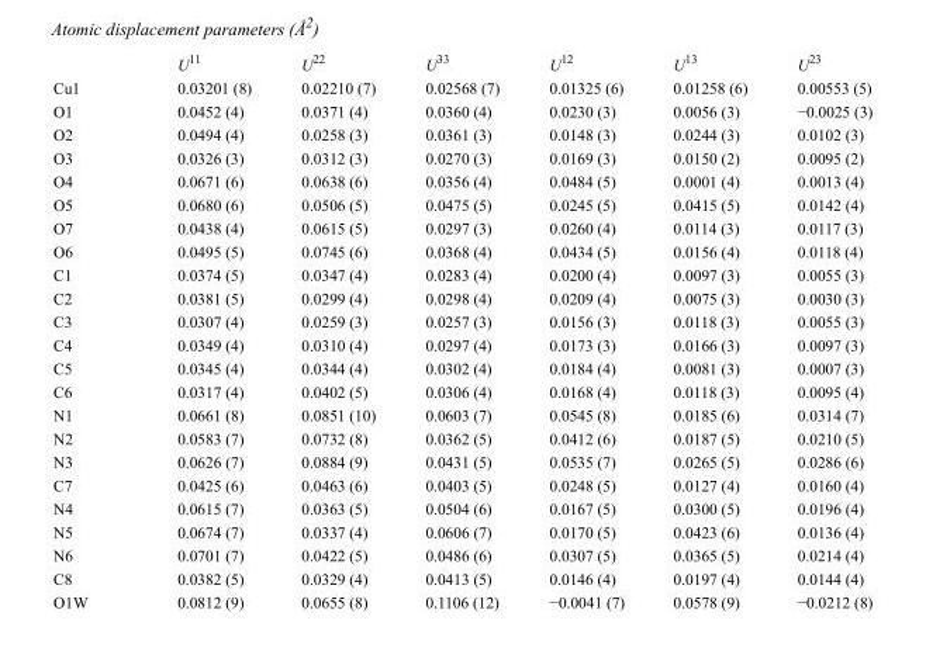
<table><thead><tr><td></td><td>U<sup>11</sup></td><td>U<sup>22</sup></td><td>U<sup>33</sup></td><td>U<sup>12</sup></td><td>U<sup>13</sup></td><td>U<sup>23</sup></td></tr></thead><tbody><tr><td>Cu1</td><td>0.03201 (8)</td><td>0.02210 (7)</td><td>0.02568 (7)</td><td>0.01325 (6)</td><td>0.01258 (6)</td><td>0.00553 (5)</td></tr><tr><td>O1</td><td>0.0452 (4)</td><td>0.0371 (4)</td><td>0.0360 (4)</td><td>0.0230 (3)</td><td>0.0056 (3)</td><td>−0.0025 (3)</td></tr><tr><td>O2</td><td>0.0494 (4)</td><td>0.0258 (3)</td><td>0.0361 (3)</td><td>0.0148 (3)</td><td>0.0244 (3)</td><td>0.0102 (3)</td></tr><tr><td>O3</td><td>0.0326 (3)</td><td>0.0312 (3)</td><td>0.0270 (3)</td><td>0.0169 (3)</td><td>0.0150 (2)</td><td>0.0095 (2)</td></tr><tr><td>O4</td><td>0.0671 (6)</td><td>0.0638 (6)</td><td>0.0356 (4)</td><td>0.0484 (5)</td><td>0.0001 (4)</td><td>0.0013 (4)</td></tr><tr><td>O5</td><td>0.0680 (6)</td><td>0.0506 (5)</td><td>0.0475 (5)</td><td>0.0245 (5)</td><td>0.0415 (5)</td><td>0.0142 (4)</td></tr><tr><td>O7</td><td>0.0438 (4)</td><td>0.0615 (5)</td><td>0.0297 (3)</td><td>0.0260 (4)</td><td>0.0114 (3)</td><td>0.0117 (3)</td></tr><tr><td>O6</td><td>0.0495 (5)</td><td>0.0745 (6)</td><td>0.0368 (4)</td><td>0.0434 (5)</td><td>0.0156 (4)</td><td>0.0118 (4)</td></tr><tr><td>C1</td><td>0.0374 (5)</td><td>0.0347 (4)</td><td>0.0283 (4)</td><td>0.0200 (4)</td><td>0.0097 (3)</td><td>0.0055 (3)</td></tr><tr><td>C2</td><td>0.0381 (5)</td><td>0.0299 (4)</td><td>0.0298 (4)</td><td>0.0209 (4)</td><td>0.0075 (3)</td><td>0.0030 (3)</td></tr><tr><td>C3</td><td>0.0307 (4)</td><td>0.0259 (3)</td><td>0.0257 (3)</td><td>0.0156 (3)</td><td>0.0118 (3)</td><td>0.0055 (3)</td></tr><tr><td>C4</td><td>0.0349 (4)</td><td>0.0310 (4)</td><td>0.0297 (4)</td><td>0.0173 (3)</td><td>0.0166 (3)</td><td>0.0097 (3)</td></tr><tr><td>C5</td><td>0.0345 (4)</td><td>0.0344 (4)</td><td>0.0302 (4)</td><td>0.0184 (4)</td><td>0.0081 (3)</td><td>0.0007 (3)</td></tr><tr><td>C6</td><td>0.0317 (4)</td><td>0.0402 (5)</td><td>0.0306 (4)</td><td>0.0168 (4)</td><td>0.0118 (3)</td><td>0.0095 (4)</td></tr><tr><td>N1</td><td>0.0661 (8)</td><td>0.0851 (10)</td><td>0.0603 (7)</td><td>0.0545 (8)</td><td>0.0185 (6)</td><td>0.0314 (7)</td></tr><tr><td>N2</td><td>0.0583 (7)</td><td>0.0732 (8)</td><td>0.0362 (5)</td><td>0.0412 (6)</td><td>0.0187 (5)</td><td>0.0210 (5)</td></tr><tr><td>N3</td><td>0.0626 (7)</td><td>0.0884 (9)</td><td>0.0431 (5)</td><td>0.0535 (7)</td><td>0.0265 (5)</td><td>0.0286 (6)</td></tr><tr><td>C7</td><td>0.0425 (6)</td><td>0.0463 (6)</td><td>0.0403 (5)</td><td>0.0248 (5)</td><td>0.0127 (4)</td><td>0.0160 (4)</td></tr><tr><td>N4</td><td>0.0615 (7)</td><td>0.0363 (5)</td><td>0.0504 (6)</td><td>0.0167 (5)</td><td>0.0300 (5)</td><td>0.0196 (4)</td></tr><tr><td>N5</td><td>0.0674 (7)</td><td>0.0337 (4)</td><td>0.0606 (7)</td><td>0.0170 (5)</td><td>0.0423 (6)</td><td>0.0136 (4)</td></tr><tr><td>N6</td><td>0.0701 (7)</td><td>0.0422 (5)</td><td>0.0486 (6)</td><td>0.0307 (5)</td><td>0.0365 (5)</td><td>0.0214 (4)</td></tr><tr><td>C8</td><td>0.0382 (5)</td><td>0.0329 (4)</td><td>0.0413 (5)</td><td>0.0146 (4)</td><td>0.0197 (4)</td><td>0.0144 (4)</td></tr><tr><td>O1W</td><td>0.0812 (9)</td><td>0.0655 (8)</td><td>0.1106 (12)</td><td>−0.0041 (7)</td><td>0.0578 (9)</td><td>−0.0212 (8)</td></tr></tbody></table>